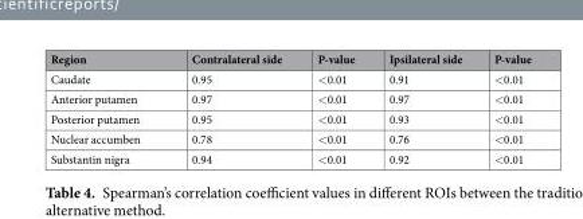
<table><thead><tr><td>Region</td><td>Contralateral side</td><td>P-value</td><td>Ipsilateral side</td><td>P-value</td></tr></thead><tbody><tr><td>Caudate</td><td>0.95</td><td>&lt;0.01</td><td>0.91</td><td>&lt;0.01</td></tr><tr><td>Anterior putamen</td><td>0.97</td><td>&lt;0.01</td><td>0.97</td><td>&lt;0.01</td></tr><tr><td>Posterior putamen</td><td>0.95</td><td>&lt;0.01</td><td>0.93</td><td>&lt;0.01</td></tr><tr><td>Nuclear accumben</td><td>0.78</td><td>&lt;0.01</td><td>0.76</td><td>&lt;0.01</td></tr><tr><td>Substantin nigra</td><td>0.94</td><td>&lt;0.01</td><td>0.92</td><td>&lt;0.01</td></tr></tbody></table>